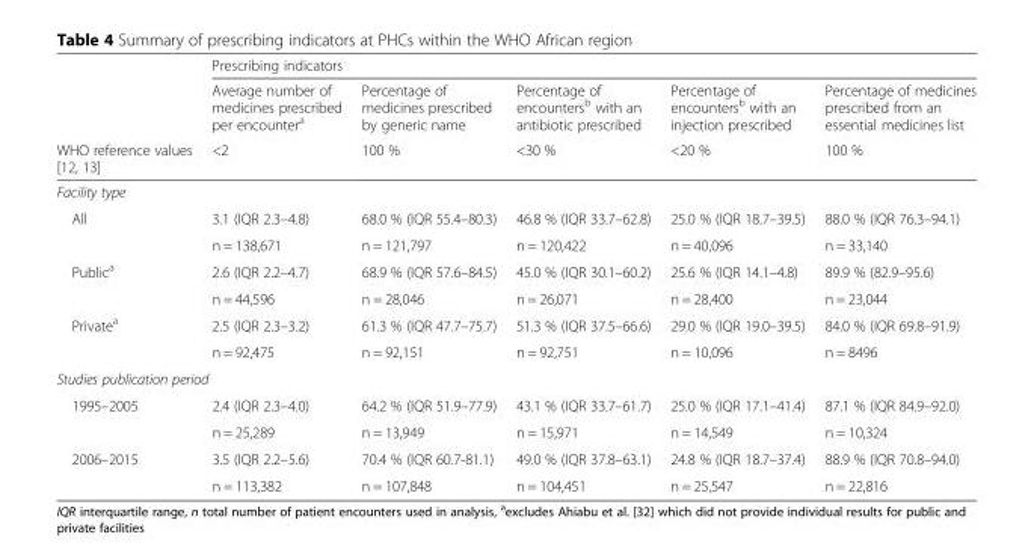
<table><thead><tr><td rowspan="3">WHO reference values [12, 13]</td><td colspan="5">Prescribing indicators</td></tr><tr><td rowspan="2">Average number of medicines prescribed per encounter<sup>a</sup> &lt;2</td><td rowspan="2">Percentage of medicines prescribed by generic name 100 %</td><td rowspan="2">Percentage of encounters<sup>b</sup> with an antibiotic prescribed &lt;30 %</td><td rowspan="2">Percentage of encounters<sup>b</sup> with an injection prescribed &lt;20 %</td><td rowspan="2">Percentage of medicines prescribed from an essential medicines list 100 %</td></tr><tr></tr></thead><tbody><tr><td colspan="6">Facility type</td></tr><tr><td rowspan="2">All</td><td>3.1 (IQR 2.3–4.8)</td><td>68.0 % (IQR 55.4–80.3)</td><td>46.8 % (IQR 33.7–62.8)</td><td>25.0 % (IQR 18.7–39.5)</td><td>88.0 % (IQR 76.3–94.1)</td></tr><tr><td>n = 138,671</td><td>n = 121,797</td><td>n = 120,422</td><td>n = 40,096</td><td>n = 33,140</td></tr><tr><td rowspan="2">Public<sup>a</sup></td><td>2.6 (IQR 2.2–4.7)</td><td>68.9 % (IQR 57.6–84.5)</td><td>45.0 % (IQR 30.1–60.2)</td><td>25.6 % (IQR 14.1–4.8)</td><td>89.9 % (82.9–95.6)</td></tr><tr><td>n = 44,596</td><td>n = 28,046</td><td>n = 26,071</td><td>n = 28,400</td><td>n = 23,044</td></tr><tr><td rowspan="2">Private<sup>a</sup></td><td>2.5 (IQR 2.3–3.2)</td><td>61.3 % (IQR 47.7–75.7)</td><td>51.3 % (IQR 37.5–66.6)</td><td>29.0 % (IQR 19.0–39.5)</td><td>84.0 % (IQR 69.8–91.9)</td></tr><tr><td>n = 92,475</td><td>n = 92,151</td><td>n = 92,751</td><td>n = 10,096</td><td>n = 8496</td></tr><tr><td colspan="6">Studies publication period</td></tr><tr><td rowspan="2">1995–2005</td><td>2.4 (IQR 2.3–4.0)</td><td>64.2 % (IQR 51.9–77.9)</td><td>43.1 % (IQR 33.7–61.7)</td><td>25.0 % (IQR 17.1–41.4)</td><td>87.1 % (IQR 84.9–92.0)</td></tr><tr><td>n = 25,289</td><td>n = 13,949</td><td>n = 15,971</td><td>n = 14,549</td><td>n = 10,324</td></tr><tr><td rowspan="2">2006–2015</td><td>3.5 (IQR 2.2–5.6)</td><td>70.4 % (IQR 60.7-81.1)</td><td>49.0 % (IQR 37.8–63.1)</td><td>24.8 % (IQR 18.7–37.4)</td><td>88.9 % (IQR 70.8–94.0)</td></tr><tr><td>n = 113,382</td><td>n = 107,848</td><td>n = 104,451</td><td>n = 25,547</td><td>n = 22,816</td></tr></tbody></table>